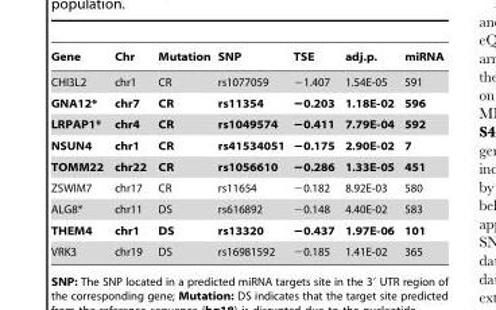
<table><thead><tr><td>Gene</td><td>Chr</td><td>Mutation</td><td>SNP</td><td>TSE</td><td>adj.p.</td><td>miRNA</td></tr></thead><tbody><tr><td>CHI3L2</td><td>chr1</td><td>CR</td><td>rs1077059</td><td>−1.407</td><td>1.54E-05</td><td>591</td></tr><tr><td>GNA12*</td><td>chr7</td><td>CR</td><td>rs11354</td><td>−0.203</td><td>1.18E-02</td><td>596</td></tr><tr><td>LRPAP1*</td><td>chr4</td><td>CR</td><td>rs1049574</td><td>−0.411</td><td>7.79E-04</td><td>592</td></tr><tr><td>NSUN4</td><td>chr1</td><td>CR</td><td>rs41534051</td><td>−0.175</td><td>2.90E-02</td><td>7</td></tr><tr><td>TOMM22</td><td>chr22</td><td>CR</td><td>rs1056610</td><td>−0.286</td><td>1.33E-05</td><td>451</td></tr><tr><td>ZSWIM7</td><td>chr17</td><td>CR</td><td>rs11654</td><td>−0.182</td><td>8.92E-03</td><td>580</td></tr><tr><td>ALG8*</td><td>chr11</td><td>DS</td><td>rs616892</td><td>−0.148</td><td>4.40E-02</td><td>583</td></tr><tr><td>THEM4</td><td>chr1</td><td>DS</td><td>rs13320</td><td>−0.437</td><td>1.97E-06</td><td>101</td></tr><tr><td>VRK3</td><td>chr19</td><td>DS</td><td>rs16981592</td><td>−0.185</td><td>1.41E-02</td><td>365</td></tr></tbody></table>